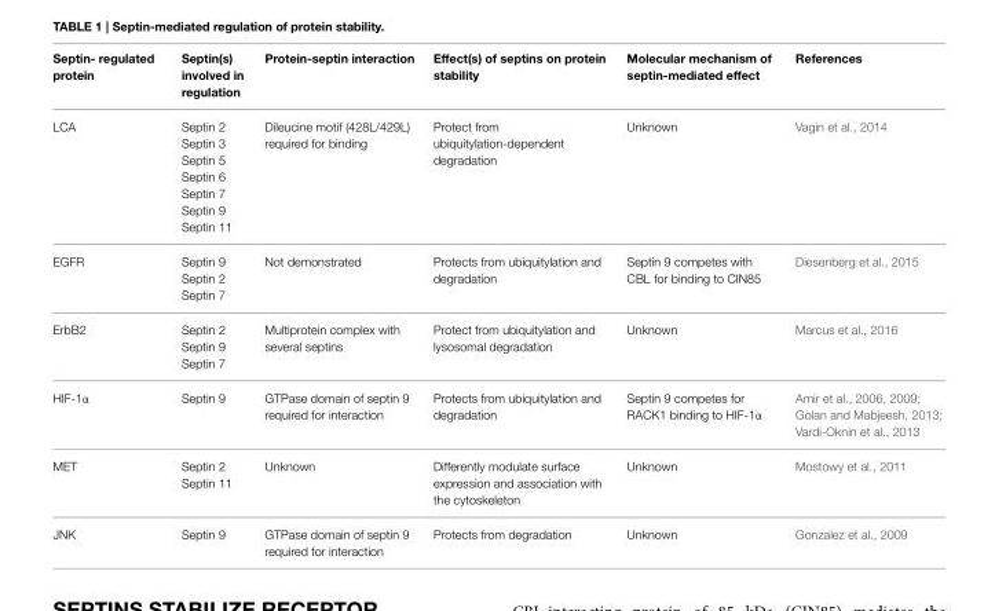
<table><thead><tr><td>Septin- regulated protein</td><td>Septin(s) involved in regulation</td><td>Protein-septin interaction</td><td>Effect(s) of septins on protein stability</td><td>Molecular mechanism of septin-mediated effect</td><td>References</td></tr></thead><tbody><tr><td>LCA</td><td>Septin 2 Septin 3 Septin 5 Septin 6 Septin 7 Septin 9 Septin 11</td><td>Dileucine motif (428L/429L) required for binding</td><td>Protect from ubiquitylation-dependent degradation</td><td>Unknown</td><td>Vagin et al., 2014</td></tr><tr><td>EGFR</td><td>Septin 9 Septin 2 Septin 7</td><td>Not demonstrated</td><td>Protects from ubiquitylation and degradation</td><td>Septin 9 competes with CBL for binding to CIN85</td><td>Diesenberg et al., 2015</td></tr><tr><td>ErbB2</td><td>Septin 2 Septin 9 Septin 7</td><td>Multiprotein complex with several septins</td><td>Protect from ubiquitylation and lysosomal degradation</td><td>Unknown</td><td>Marcus et al., 2016</td></tr><tr><td>HIF-1α</td><td>Septin 9</td><td>GTPase domain of septin 9 required for interaction</td><td>Protects from ubiquitylation and degradation</td><td>Septin 9 competes for RACK1 binding to HIF-1α</td><td>Amir et al., 2006, 2009; Golan and Mabjeesh, 2013; Vardi-Oknin et al., 2013</td></tr><tr><td>MET</td><td>Septin 2 Septin 11</td><td>Unknown</td><td>Differently modulate surface expression and association with the cytoskeleton</td><td>Unknown</td><td>Mostowy et al., 2011</td></tr><tr><td>JNK</td><td>Septin 9</td><td>GTPase domain of septin 9 required for interaction</td><td>Protects from degradation</td><td>Unknown</td><td>Gonzalez et al., 2009</td></tr></tbody></table>